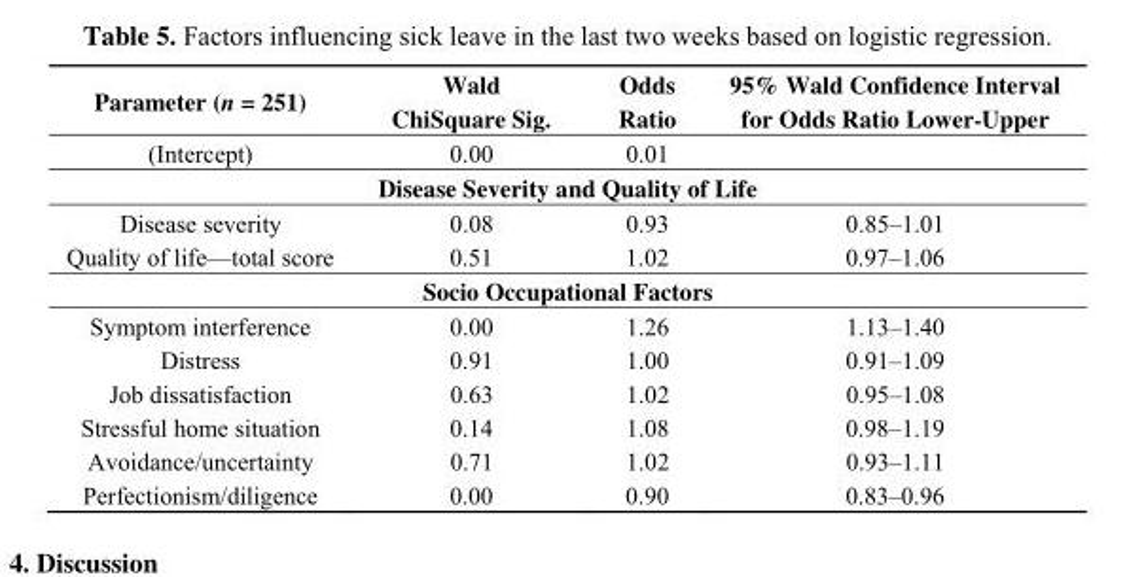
<table><thead><tr><td>Parameter (n = 251)</td><td>Wald ChiSquare Sig.</td><td>Odds Ratio</td><td>95% Wald Confidence Interval for Odds Ratio Lower-Upper</td></tr></thead><tbody><tr><td>(Intercept)</td><td>0.00</td><td>0.01</td><td></td></tr><tr><td colspan="4">Disease Severity and Quality of Life</td></tr><tr><td>Disease severity</td><td>0.08</td><td>0.93</td><td>0.85–1.01</td></tr><tr><td>Quality of life—total score</td><td>0.51</td><td>1.02</td><td>0.97–1.06</td></tr><tr><td colspan="4">Socio Occupational Factors</td></tr><tr><td>Symptom interference</td><td>0.00</td><td>1.26</td><td>1.13–1.40</td></tr><tr><td>Distress</td><td>0.91</td><td>1.00</td><td>0.91–1.09</td></tr><tr><td>Job dissatisfaction</td><td>0.63</td><td>1.02</td><td>0.95–1.08</td></tr><tr><td>Stressful home situation</td><td>0.14</td><td>1.08</td><td>0.98–1.19</td></tr><tr><td>Avoidance/uncertainty</td><td>0.71</td><td>1.02</td><td>0.93–1.11</td></tr><tr><td>Perfectionism/diligence</td><td>0.00</td><td>0.90</td><td>0.83–0.96</td></tr></tbody></table>